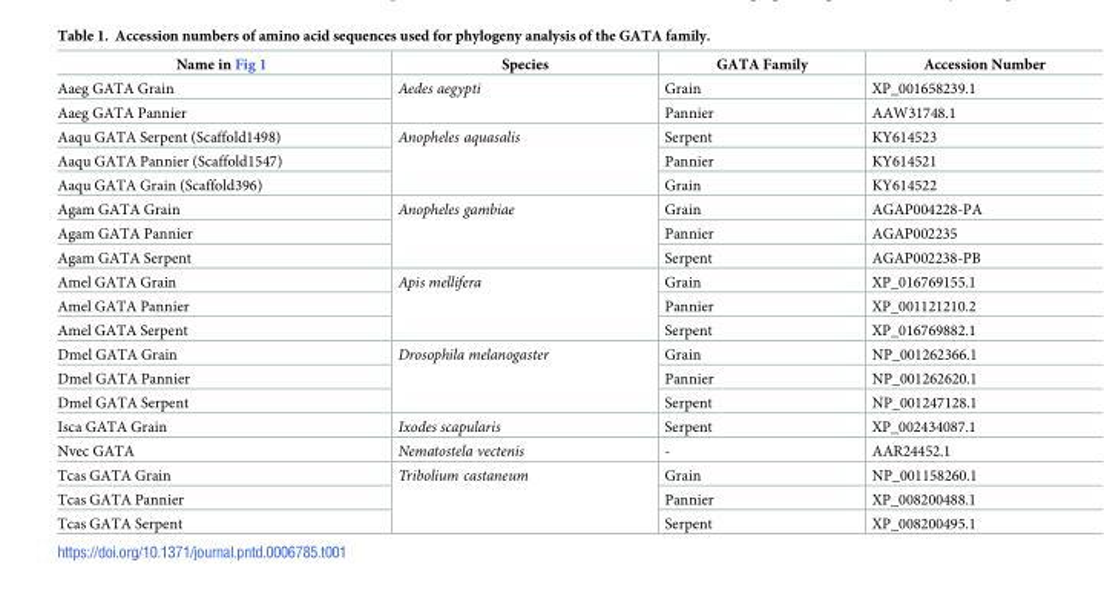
<table><thead><tr><td>Name in Fig 1</td><td>Species</td><td>GATA Family</td><td>Accession Number</td></tr></thead><tbody><tr><td>Aaeg GATA Grain</td><td rowspan="2">Aedes aegypti</td><td>Grain</td><td>XP_001658239.1</td></tr><tr><td>Aaeg GATA Pannier</td><td>Pannier</td><td>AAW31748.1</td></tr><tr><td>Aaqu GATA Serpent (Scaffold1498)</td><td rowspan="3">Anopheles aquasalis</td><td>Serpent</td><td>KY614523</td></tr><tr><td>Aaqu GATA Pannier (Scaffold1547)</td><td>Pannier</td><td>KY614521</td></tr><tr><td>Aaqu GATA Grain (Scaffold396)</td><td>Grain</td><td>KY614522</td></tr><tr><td>Agam GATA Grain</td><td rowspan="3">Anopheles gambiae</td><td>Grain</td><td>AGAP004228-PA</td></tr><tr><td>Agam GATA Pannier</td><td>Pannier</td><td>AGAP002235</td></tr><tr><td>Agam GATA Serpent</td><td>Serpent</td><td>AGAP002238-PB</td></tr><tr><td>Amel GATA Grain</td><td rowspan="3">Apis mellifera</td><td>Grain</td><td>XP_016769155.1</td></tr><tr><td>Amel GATA Pannier</td><td>Pannier</td><td>XP_001121210.2</td></tr><tr><td>Amel GATA Serpent</td><td>Serpent</td><td>XP_016769882.1</td></tr><tr><td>Dmel GATA Grain</td><td rowspan="3">Drosophila melanogaster</td><td>Grain</td><td>NP_001262366.1</td></tr><tr><td>Dmel GATA Pannier</td><td>Pannier</td><td>NP_001262620.1</td></tr><tr><td>Dmel GATA Serpent</td><td>Serpent</td><td>NP_001247128.1</td></tr><tr><td>Isca GATA Grain</td><td>Ixodes scapularis</td><td>Serpent</td><td>XP_002434087.1</td></tr><tr><td>Nvec GATA</td><td>Nematostela vectenis</td><td>-</td><td>AAR24452.1</td></tr><tr><td>Tcas GATA Grain</td><td rowspan="3">Tribolium castaneum</td><td>Grain</td><td>NP_001158260.1</td></tr><tr><td>Tcas GATA Pannier</td><td>Pannier</td><td>XP_008200488.1</td></tr><tr><td>Tcas GATA Serpent</td><td>Serpent</td><td>XP_008200495.1</td></tr></tbody></table>